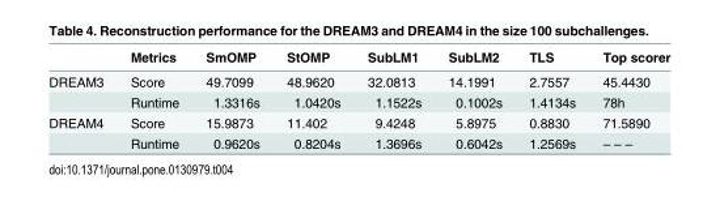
<table><thead><tr><td></td><td>Metrics</td><td>SmOMP</td><td>StOMP</td><td>SubLM1</td><td>SubLM2</td><td>TLS</td><td>Top scorer</td></tr></thead><tbody><tr><td rowspan="2">DREAM3</td><td>Score</td><td>49.7099</td><td>48.9620</td><td>32.0813</td><td>14.1991</td><td>2.7557</td><td>45.4430</td></tr><tr><td>Runtime</td><td>1.3316s</td><td>1.0420s</td><td>1.1522s</td><td>0.1002s</td><td>1.4134s</td><td>78h</td></tr><tr><td rowspan="2">DREAM4</td><td>Score</td><td>15.9873</td><td>11.402</td><td>9.4248</td><td>5.8975</td><td>0.8830</td><td>71.5890</td></tr><tr><td>Runtime</td><td>0.9620s</td><td>0.8204s</td><td>1.3696s</td><td>0.6042s</td><td>1.2569s</td><td>– – –</td></tr></tbody></table>